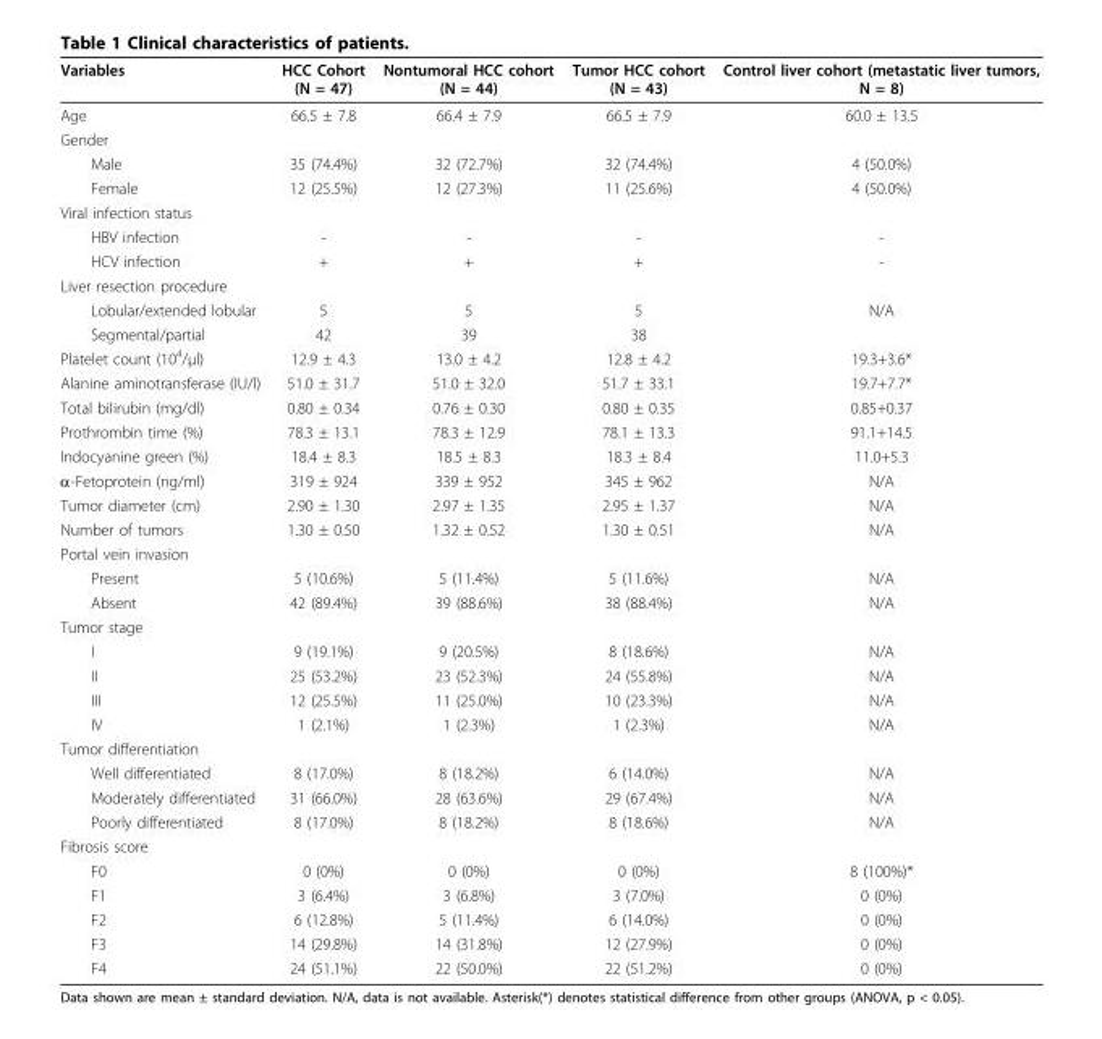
<table><thead><tr><td>Variables</td><td>HCC Cohort (N = 47)</td><td>Nontumoral HCC cohort (N = 44)</td><td>Tumor HCC cohort (N = 43)</td><td>Control liver cohort (metastatic liver tumors, N = 8)</td></tr></thead><tbody><tr><td>Age</td><td>66.5 ± 7.8</td><td>66.4 ± 7.9</td><td>66.5 ± 7.9</td><td>60.0 ± 13.5</td></tr><tr><td colspan="5">Gender</td></tr><tr><td>Male</td><td>35 (74.4%)</td><td>32 (72.7%)</td><td>32 (74.4%)</td><td>4 (50.0%)</td></tr><tr><td>Female</td><td>12 (25.5%)</td><td>12 (27.3%)</td><td>11 (25.6%)</td><td>4 (50.0%)</td></tr><tr><td colspan="5">Viral infection status</td></tr><tr><td>HBV infection</td><td>-</td><td>-</td><td>-</td><td>-</td></tr><tr><td>HCV infection</td><td>+</td><td>+</td><td>+</td><td>-</td></tr><tr><td colspan="5">Liver resection procedure</td></tr><tr><td>Lobular/extended lobular</td><td>5</td><td>5</td><td>5</td><td>N/A</td></tr><tr><td>Segmental/partial</td><td>42</td><td>39</td><td>38</td><td></td></tr><tr><td>Platelet count (10<sup>4</sup>/μl)</td><td>12.9 ± 4.3</td><td>13.0 ± 4.2</td><td>12.8 ± 4.2</td><td>19.3+3.6*</td></tr><tr><td>Alanine aminotransferase (IU/l)</td><td>51.0 ± 31.7</td><td>51.0 ± 32.0</td><td>51.7 ± 33.1</td><td>19.7+7.7*</td></tr><tr><td>Total bilirubin (mg/dl)</td><td>0.80 ± 0.34</td><td>0.76 ± 0.30</td><td>0.80 ± 0.35</td><td>0.85+0.37</td></tr><tr><td>Prothrombin time (%)</td><td>78.3 ± 13.1</td><td>78.3 ± 12.9</td><td>78.1 ± 13.3</td><td>91.1+14.5</td></tr><tr><td>Indocyanine green (%)</td><td>18.4 ± 8.3</td><td>18.5 ± 8.3</td><td>18.3 ± 8.4</td><td>11.0+5.3</td></tr><tr><td>α-Fetoprotein (ng/ml)</td><td>319 ± 924</td><td>339 ± 952</td><td>345 ± 962</td><td>N/A</td></tr><tr><td>Tumor diameter (cm)</td><td>2.90 ± 1.30</td><td>2.97 ± 1.35</td><td>2.95 ± 1.37</td><td>N/A</td></tr><tr><td>Number of tumors</td><td>1.30 ± 0.50</td><td>1.32 ± 0.52</td><td>1.30 ± 0.51</td><td>N/A</td></tr><tr><td colspan="5">Portal vein invasion</td></tr><tr><td>Present</td><td>5 (10.6%)</td><td>5 (11.4%)</td><td>5 (11.6%)</td><td>N/A</td></tr><tr><td>Absent</td><td>42 (89.4%)</td><td>39 (88.6%)</td><td>38 (88.4%)</td><td>N/A</td></tr><tr><td colspan="5">Tumor stage</td></tr><tr><td>I</td><td>9 (19.1%)</td><td>9 (20.5%)</td><td>8 (18.6%)</td><td>N/A</td></tr><tr><td>II</td><td>25 (53.2%)</td><td>23 (52.3%)</td><td>24 (55.8%)</td><td>N/A</td></tr><tr><td>III</td><td>12 (25.5%)</td><td>11 (25.0%)</td><td>10 (23.3%)</td><td>N/A</td></tr><tr><td>IV</td><td>1 (2.1%)</td><td>1 (2.3%)</td><td>1 (2.3%)</td><td>N/A</td></tr><tr><td colspan="5">Tumor differentiation</td></tr><tr><td>Well differentiated</td><td>8 (17.0%)</td><td>8 (18.2%)</td><td>6 (14.0%)</td><td>N/A</td></tr><tr><td>Moderately differentiated</td><td>31 (66.0%)</td><td>28 (63.6%)</td><td>29 (67.4%)</td><td>N/A</td></tr><tr><td>Poorly differentiated</td><td>8 (17.0%)</td><td>8 (18.2%)</td><td>8 (18.6%)</td><td>N/A</td></tr><tr><td colspan="5">Fibrosis score</td></tr><tr><td>F0</td><td>0 (0%)</td><td>0 (0%)</td><td>0 (0%)</td><td>8 (100%)*</td></tr><tr><td>F1</td><td>3 (6.4%)</td><td>3 (6.8%)</td><td>3 (7.0%)</td><td>0 (0%)</td></tr><tr><td>F2</td><td>6 (12.8%)</td><td>5 (11.4%)</td><td>6 (14.0%)</td><td>0 (0%)</td></tr><tr><td>F3</td><td>14 (29.8%)</td><td>14 (31.8%)</td><td>12 (27.9%)</td><td>0 (0%)</td></tr><tr><td>F4</td><td>24 (51.1%)</td><td>22 (50.0%)</td><td>22 (51.2%)</td><td>0 (0%)</td></tr></tbody></table>